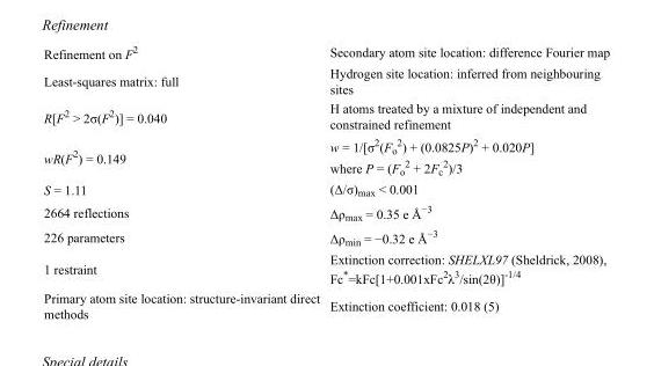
<table><tbody><tr><td>Refinement on F<sup>2</sup></td><td>Secondary atom site location: difference Fourier map</td></tr><tr><td>Least-squares matrix: full</td><td>Hydrogen site location: inferred from neighbouring sites</td></tr><tr><td>R[F<sup>2</sup> &gt; 2σ(F<sup>2</sup>)] = 0.040</td><td>H atoms treated by a mixture of independent and constrained refinement</td></tr><tr><td>wR(F<sup>2</sup>) = 0.149</td><td>w = 1/[σ<sup>2</sup>(F<sub>o</sub> <sup>2</sup>) + (0.0825P)<sup>2</sup> + 0.020P] where P = (F<sub>o</sub> <sup>2</sup> + 2F<sub>c</sub> <sup>2</sup>)/3</td></tr><tr><td>S = 1.11</td><td>(Δ/σ)<sub>max</sub> &lt; 0.001</td></tr><tr><td>2664 reflections</td><td>Δρ<sub>max</sub> = 0.35 e Å<sup>−3</sup></td></tr><tr><td>226 parameters</td><td>Δρ<sub>min</sub> = −0.32 e Å<sup>−3</sup></td></tr><tr><td>1 restraint</td><td>Extinction correction: SHELXL97 (Sheldrick, 2008), Fc*=kFc[1+0.001xFc<sup>2</sup>λ<sup>3</sup>/sin(2θ)]<sup>-1/4</sup></td></tr><tr><td>Primary atom site location: structure-invariant direct methods</td><td>Extinction coefficient: 0.018 (5)</td></tr></tbody></table>